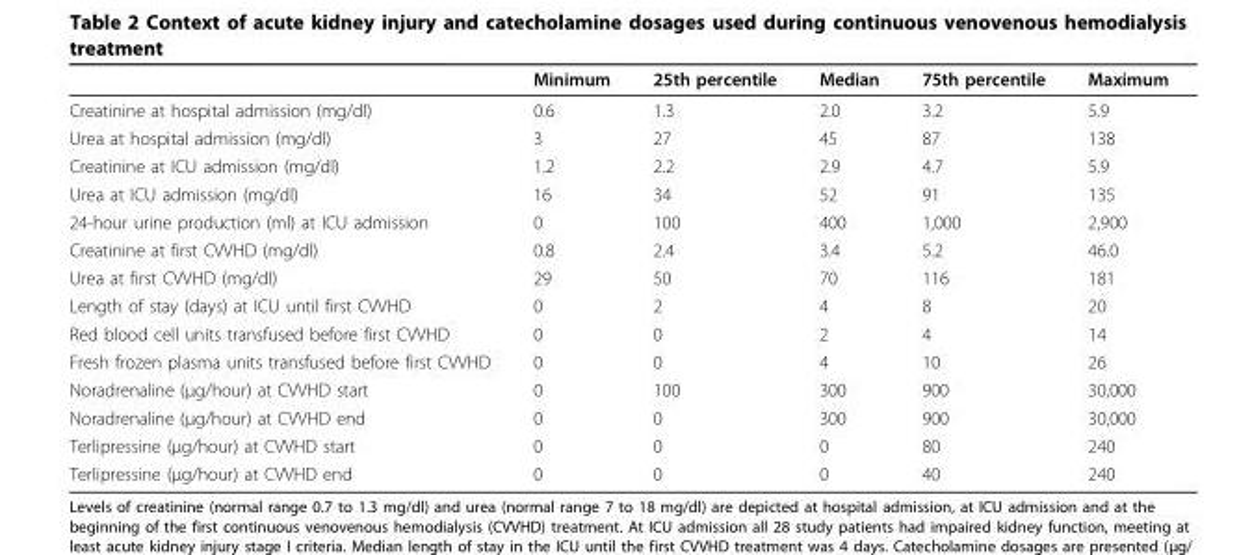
<table><thead><tr><td></td><td>Minimum</td><td>25th percentile</td><td>Median</td><td>75th percentile</td><td>Maximum</td></tr></thead><tbody><tr><td>Creatinine at hospital admission (mg/dl)</td><td>0.6</td><td>1.3</td><td>2.0</td><td>3.2</td><td>5.9</td></tr><tr><td>Urea at hospital admission (mg/dl)</td><td>3</td><td>27</td><td>45</td><td>87</td><td>138</td></tr><tr><td>Creatinine at ICU admission (mg/dl)</td><td>1.2</td><td>2.2</td><td>2.9</td><td>4.7</td><td>5.9</td></tr><tr><td>Urea at ICU admission (mg/dl)</td><td>16</td><td>34</td><td>52</td><td>91</td><td>135</td></tr><tr><td>24-hour urine production (ml) at ICU admission</td><td>0</td><td>100</td><td>400</td><td>1,000</td><td>2,900</td></tr><tr><td>Creatinine at first CVVHD (mg/dl)</td><td>0.8</td><td>2.4</td><td>3.4</td><td>5.2</td><td>46.0</td></tr><tr><td>Urea at first CVVHD (mg/dl)</td><td>29</td><td>50</td><td>70</td><td>116</td><td>181</td></tr><tr><td>Length of stay (days) at ICU until first CVVHD</td><td>0</td><td>2</td><td>4</td><td>8</td><td>20</td></tr><tr><td>Red blood cell units transfused before first CVVHD</td><td>0</td><td>0</td><td>2</td><td>4</td><td>14</td></tr><tr><td>Fresh frozen plasma units transfused before first CVVHD</td><td>0</td><td>0</td><td>4</td><td>10</td><td>26</td></tr><tr><td>Noradrenaline (μg/hour) at CVVHD start</td><td>0</td><td>100</td><td>300</td><td>900</td><td>30,000</td></tr><tr><td>Noradrenaline (μg/hour) at CVVHD end</td><td>0</td><td>0</td><td>300</td><td>900</td><td>30,000</td></tr><tr><td>Terlipressine (μg/hour) at CVVHD start</td><td>0</td><td>0</td><td>0</td><td>80</td><td>240</td></tr><tr><td>Terlipressine (μg/hour) at CVVHD end</td><td>0</td><td>0</td><td>0</td><td>40</td><td>240</td></tr></tbody></table>